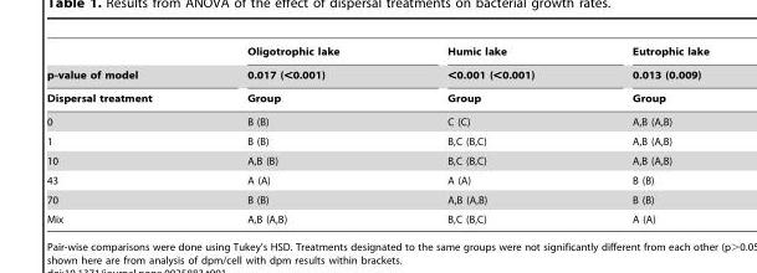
<table><thead><tr><td rowspan="3">p-value of model Dispersal treatment</td><td rowspan="3">Oligotrophic lake 0.017 (&lt;0.001) Group</td><td rowspan="3">Humic lake &lt;0.001 (&lt;0.001) Group</td><td rowspan="3">Eutrophic lake 0.013 (0.009) Group</td></tr><tr></tr><tr></tr></thead><tbody><tr><td>0</td><td>B (B)</td><td>C (C)</td><td>A,B (A,B)</td></tr><tr><td>1</td><td>B (B)</td><td>B,C (B,C)</td><td>A,B (A,B)</td></tr><tr><td>10</td><td>A,B (B)</td><td>B,C (B,C)</td><td>A,B (A,B)</td></tr><tr><td>43</td><td>A (A)</td><td>A (A)</td><td>B (B)</td></tr><tr><td>70</td><td>B (B)</td><td>A,B (A,B)</td><td>B (B)</td></tr><tr><td>Mix</td><td>A,B (A,B)</td><td>B,C (B,C)</td><td>A (A)</td></tr></tbody></table>